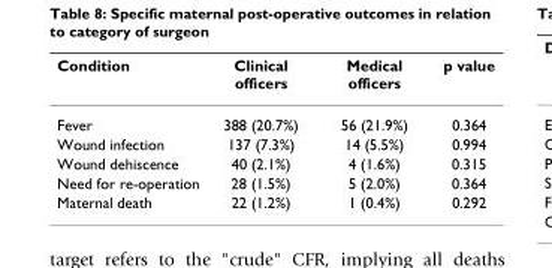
<table><thead><tr><td>Condition</td><td>Clinical officers</td><td>Medical officers</td><td>p value</td></tr></thead><tbody><tr><td>Fever</td><td>388 (20.7%)</td><td>56 (21.9%)</td><td>0.364</td></tr><tr><td>Wound infection</td><td>137 (7.3%)</td><td>14 (5.5%)</td><td>0.994</td></tr><tr><td>Wound dehiscence</td><td>40 (2.1%)</td><td>4 (1.6%)</td><td>0.315</td></tr><tr><td>Need for re-operation</td><td>28 (1.5%)</td><td>5 (2.0%)</td><td>0.364</td></tr><tr><td>Maternal death</td><td>22 (1.2%)</td><td>1 (0.4%)</td><td>0.292</td></tr></tbody></table>